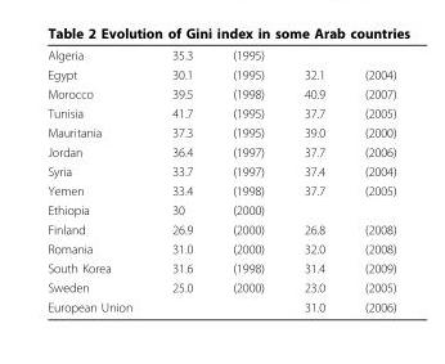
<table><tbody><tr><td>Algeria</td><td>35.3</td><td>(1995)</td><td></td><td></td></tr><tr><td>Egypt</td><td>30.1</td><td>(1995)</td><td>32.1</td><td>(2004)</td></tr><tr><td>Morocco</td><td>39.5</td><td>(1998)</td><td>40.9</td><td>(2007)</td></tr><tr><td>Tunisia</td><td>41.7</td><td>(1995)</td><td>37.7</td><td>(2005)</td></tr><tr><td>Mauritania</td><td>37.3</td><td>(1995)</td><td>39.0</td><td>(2000)</td></tr><tr><td>Jordan</td><td>36.4</td><td>(1997)</td><td>37.7</td><td>(2006)</td></tr><tr><td>Syria</td><td>33.7</td><td>(1997)</td><td>37.4</td><td>(2004)</td></tr><tr><td>Yemen</td><td>33.4</td><td>(1998)</td><td>37.7</td><td>(2005)</td></tr><tr><td>Ethiopia</td><td>30</td><td>(2000)</td><td></td><td></td></tr><tr><td>Finland</td><td>26.9</td><td>(2000)</td><td>26.8</td><td>(2008)</td></tr><tr><td>Romania</td><td>31.0</td><td>(2000)</td><td>32.0</td><td>(2008)</td></tr><tr><td>South Korea</td><td>31.6</td><td>(1998)</td><td>31.4</td><td>(2009)</td></tr><tr><td>Sweden</td><td>25.0</td><td>(2000)</td><td>23.0</td><td>(2005)</td></tr><tr><td>European Union</td><td></td><td></td><td>31.0</td><td>(2006)</td></tr></tbody></table>